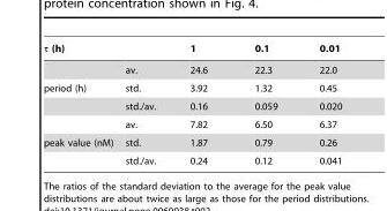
<table><thead><tr><td>τ (h)</td><td></td><td>1</td><td>0.1</td><td>0.01</td></tr></thead><tbody><tr><td></td><td>av.</td><td>24.6</td><td>22.3</td><td>22.0</td></tr><tr><td rowspan="3">period (h)</td><td>std.</td><td>3.92</td><td>1.32</td><td>0.45</td></tr><tr><td>std./av.</td><td>0.16</td><td>0.059</td><td>0.020</td></tr><tr><td>av.</td><td>7.82</td><td>6.50</td><td>6.37</td></tr><tr><td rowspan="2">peak value (nM)</td><td>std.</td><td>1.87</td><td>0.79</td><td>0.26</td></tr><tr><td>std./av.</td><td>0.24</td><td>0.12</td><td>0.041</td></tr></tbody></table>